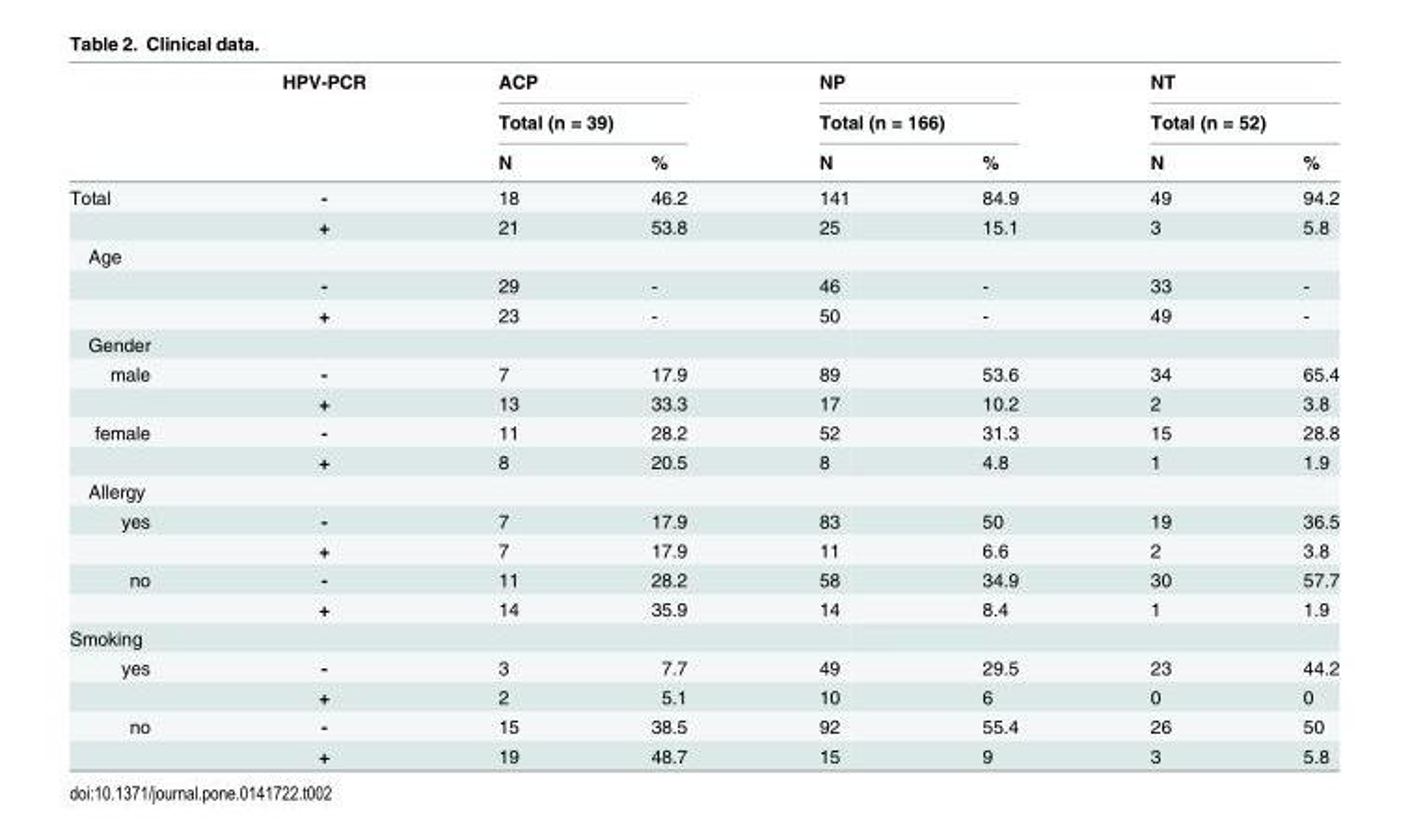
<table><thead><tr><td rowspan="3"></td><td rowspan="3">HPV-PCR</td><td rowspan="2" colspan="2">ACP Total (n = 39)</td><td rowspan="2" colspan="2">NP Total (n = 166)</td><td rowspan="2" colspan="2">NT Total (n = 52)</td></tr><tr></tr><tr><td>N</td><td>%</td><td>N</td><td>%</td><td>N</td><td>%</td></tr></thead><tbody><tr><td rowspan="2">Total</td><td>-</td><td>18</td><td>46.2</td><td>141</td><td>84.9</td><td>49</td><td>94.2</td></tr><tr><td>+</td><td>21</td><td>53.8</td><td>25</td><td>15.1</td><td>3</td><td>5.8</td></tr><tr><td colspan="8">Age</td></tr><tr><td></td><td>-</td><td>29</td><td>-</td><td>46</td><td>-</td><td>33</td><td>-</td></tr><tr><td></td><td>+</td><td>23</td><td>-</td><td>50</td><td>-</td><td>49</td><td>-</td></tr><tr><td colspan="8">Gender</td></tr><tr><td rowspan="2">male</td><td>-</td><td>7</td><td>17.9</td><td>89</td><td>53.6</td><td>34</td><td>65.4</td></tr><tr><td>+</td><td>13</td><td>33.3</td><td>17</td><td>10.2</td><td>2</td><td>3.8</td></tr><tr><td rowspan="2">female</td><td>-</td><td>11</td><td>28.2</td><td>52</td><td>31.3</td><td>15</td><td>28.8</td></tr><tr><td>+</td><td>8</td><td>20.5</td><td>8</td><td>4.8</td><td>1</td><td>1.9</td></tr><tr><td colspan="8">Allergy</td></tr><tr><td rowspan="2">yes</td><td>-</td><td>7</td><td>17.9</td><td>83</td><td>50</td><td>19</td><td>36.5</td></tr><tr><td>+</td><td>7</td><td>17.9</td><td>11</td><td>6.6</td><td>2</td><td>3.8</td></tr><tr><td rowspan="2">no</td><td>-</td><td>11</td><td>28.2</td><td>58</td><td>34.9</td><td>30</td><td>57.7</td></tr><tr><td>+</td><td>14</td><td>35.9</td><td>14</td><td>8.4</td><td>1</td><td>1.9</td></tr><tr><td colspan="8">Smoking</td></tr><tr><td rowspan="2">yes</td><td>-</td><td>3</td><td>7.7</td><td>49</td><td>29.5</td><td>23</td><td>44.2</td></tr><tr><td>+</td><td>2</td><td>5.1</td><td>10</td><td>6</td><td>0</td><td>0</td></tr><tr><td rowspan="2">no</td><td>-</td><td>15</td><td>38.5</td><td>92</td><td>55.4</td><td>26</td><td>50</td></tr><tr><td>+</td><td>19</td><td>48.7</td><td>15</td><td>9</td><td>3</td><td>5.8</td></tr></tbody></table>